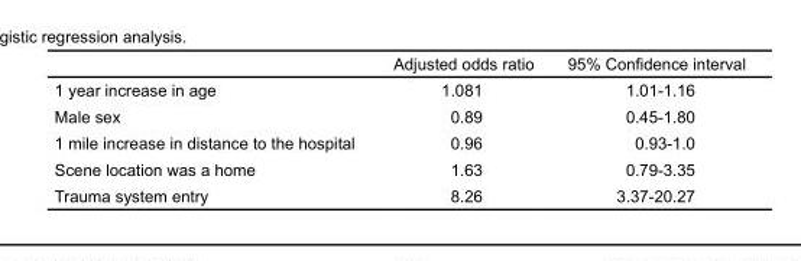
<table><thead><tr><td></td><td>Adjusted odds ratio</td><td>95% Confidence interval</td></tr></thead><tbody><tr><td>1 year increase in age</td><td>1.081</td><td>1.01-1.16</td></tr><tr><td>Male sex</td><td>0.89</td><td>0.45-1.80</td></tr><tr><td>1 mile increase in distance to the hospital</td><td>0.96</td><td>0.93-1.0</td></tr><tr><td>Scene location was a home</td><td>1.63</td><td>0.79-3.35</td></tr><tr><td>Trauma system entry</td><td>8.26</td><td>3.37-20.27</td></tr></tbody></table>